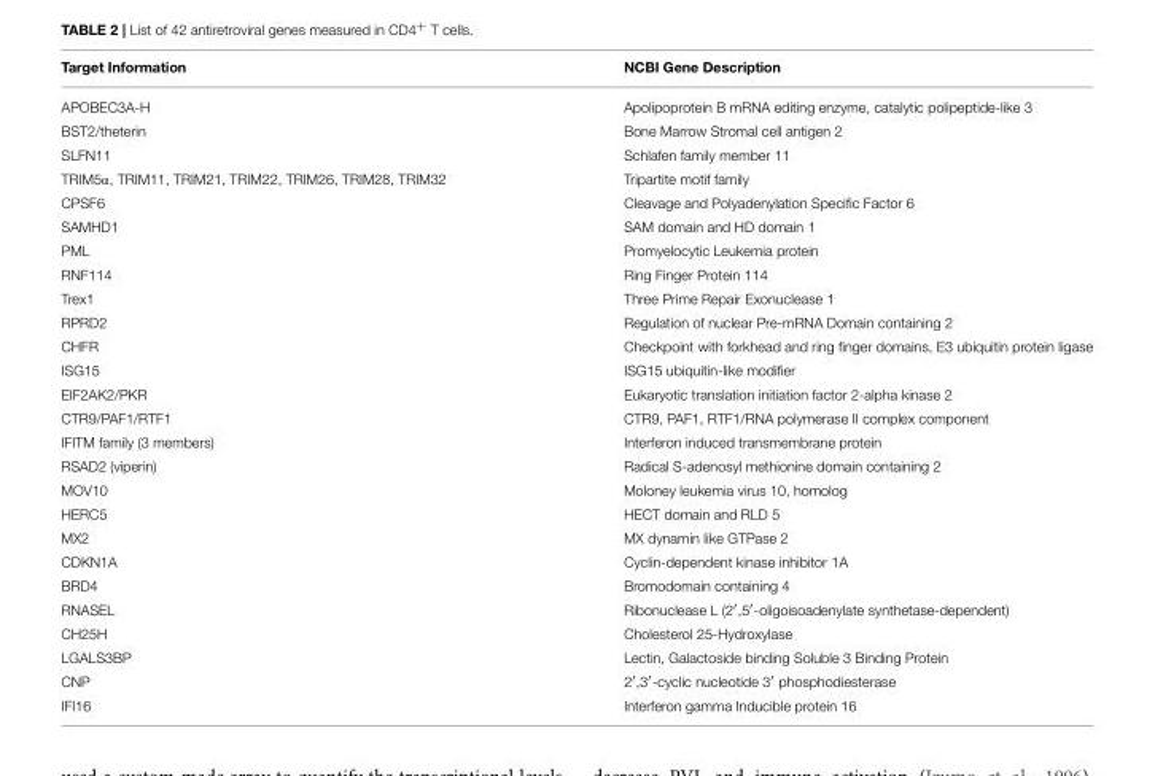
<table><thead><tr><td>Target Information</td><td>NCBI Gene Description</td></tr></thead><tbody><tr><td>APOBEC3A-H</td><td>Apolipoprotein B mRNA editing enzyme, catalytic polipeptide-like 3</td></tr><tr><td>BST2/theterin</td><td>Bone Marrow Stromal cell antigen 2</td></tr><tr><td>SLFN11</td><td>Schlafen family member 11</td></tr><tr><td>TRIM5α, TRIM11, TRIM21, TRIM22, TRIM26, TRIM28, TRIM32</td><td>Tripartite motif family</td></tr><tr><td>CPSF6</td><td>Cleavage and Polyadenylation Specific Factor 6</td></tr><tr><td>SAMHD1</td><td>SAM domain and HD domain 1</td></tr><tr><td>PML</td><td>Promyelocytic Leukemia protein</td></tr><tr><td>RNF114</td><td>Ring Finger Protein 114</td></tr><tr><td>Trex1</td><td>Three Prime Repair Exonuclease 1</td></tr><tr><td>RPRD2</td><td>Regulation of nuclear Pre-mRNA Domain containing 2</td></tr><tr><td>CHFR</td><td>Checkpoint with forkhead and ring finger domains, E3 ubiquitin protein ligase</td></tr><tr><td>ISG15</td><td>ISG15 ubiquitin-like modifier</td></tr><tr><td>EIF2AK2/PKR</td><td>Eukaryotic translation initiation factor 2-alpha kinase 2</td></tr><tr><td>CTR9/PAF1/RTF1</td><td>CTR9, PAF1, RTF1/RNA polymerase II complex component</td></tr><tr><td>IFITM family (3 members)</td><td>Interferon induced transmembrane protein</td></tr><tr><td>RSAD2 (viperin)</td><td>Radical S-adenosyl methionine domain containing 2</td></tr><tr><td>MOV10</td><td>Moloney leukemia virus 10, homolog</td></tr><tr><td>HERC5</td><td>HECT domain and RLD 5</td></tr><tr><td>MX2</td><td>MX dynamin like GTPase 2</td></tr><tr><td>CDKN1A</td><td>Cyclin-dependent kinase inhibitor 1A</td></tr><tr><td>BRD4</td><td>Bromodomain containing 4</td></tr><tr><td>RNASEL</td><td>Ribonuclease L (2′,5′-oligoisoadenylate synthetase-dependent)</td></tr><tr><td>CH25H</td><td>Cholesterol 25-Hydroxylase</td></tr><tr><td>LGALS3BP</td><td>Lectin, Galactoside binding Soluble 3 Binding Protein</td></tr><tr><td>CNP</td><td>2′,3′-cyclic nucleotide 3′ phosphodiesterase</td></tr><tr><td>IFI16</td><td>Interferon gamma Inducible protein 16</td></tr></tbody></table>